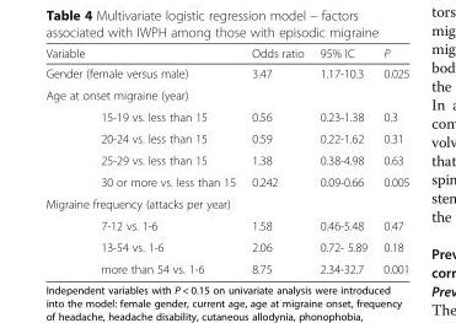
<table><thead><tr><td>Variable</td><td></td><td>Odds ratio</td><td>95% IC</td><td>P</td></tr></thead><tbody><tr><td colspan="2">Gender (female versus male)</td><td>3.47</td><td>1.17-10.3</td><td>0.025</td></tr><tr><td colspan="5">Age at onset migraine (year)</td></tr><tr><td></td><td>15-19 vs. less than 15</td><td>0.56</td><td>0.23-1.38</td><td>0.3</td></tr><tr><td></td><td>20-24 vs. less than 15</td><td>0.59</td><td>0.22-1.62</td><td>0.31</td></tr><tr><td></td><td>25-29 vs. less than 15</td><td>1.38</td><td>0.38-4.98</td><td>0.63</td></tr><tr><td></td><td>30 or more vs. less than 15</td><td>0.242</td><td>0.09-0.66</td><td>0.005</td></tr><tr><td colspan="5">Migraine frequency (attacks per year)</td></tr><tr><td></td><td>7-12 vs. 1-6</td><td>1.58</td><td>0.46-5.48</td><td>0.47</td></tr><tr><td></td><td>13-54 vs. 1-6</td><td>2.06</td><td>0.72- 5.89</td><td>0.18</td></tr><tr><td></td><td>more than 54 vs. 1-6</td><td>8.75</td><td>2.34-32.7</td><td>0.001</td></tr></tbody></table>